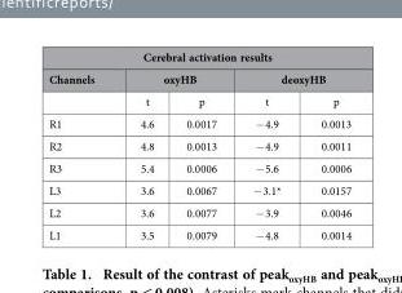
<table><thead><tr><td colspan="5">Cerebral activation results</td></tr><tr><td rowspan="2">Channels</td><td colspan="2">oxyHB</td><td colspan="2">deoxyHB</td></tr><tr><td>t</td><td>p</td><td>t</td><td>p</td></tr></thead><tbody><tr><td>R1</td><td>4.6</td><td>0.0017</td><td>− 4.9</td><td>0.0013</td></tr><tr><td>R2</td><td>4.8</td><td>0.0013</td><td>− 4.9</td><td>0.0011</td></tr><tr><td>R3</td><td>5.4</td><td>0.0006</td><td>− 5.6</td><td>0.0006</td></tr><tr><td>L3</td><td>3.6</td><td>0.0067</td><td>− 3.1*</td><td>0.0157</td></tr><tr><td>L2</td><td>3.6</td><td>0.0077</td><td>− 3.9</td><td>0.0046</td></tr><tr><td>L1</td><td>3.5</td><td>0.0079</td><td>− 4.8</td><td>0.0014</td></tr></tbody></table>